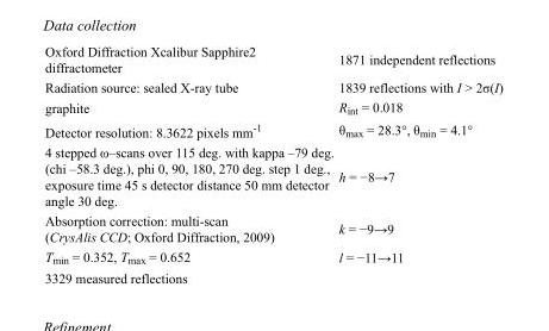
<table><tbody><tr><td>Oxford Diffraction Xcalibur Sapphire2 diffractometer</td><td>1871 independent reflections</td></tr><tr><td>Radiation source: sealed X-ray tube</td><td>1839 reflections with I &gt; 2σ(I)</td></tr><tr><td>graphite</td><td>R<sub>int</sub> = 0.018</td></tr><tr><td>Detector resolution: 8.3622 pixels mm<sup>-1</sup></td><td>θ<sub>max</sub> = 28.3°, θ<sub>min</sub> = 4.1°</td></tr><tr><td>4 stepped ω–scans over 115 deg. with kappa –79 deg. (chi –58.3 deg.), phi 0, 90, 180, 270 deg. step 1 deg., exposure time 45 s detector distance 50 mm detector angle 30 deg.</td><td>h = −8→7</td></tr><tr><td>Absorption correction: multi-scan (CrysAlis CCD; Oxford Diffraction, 2009)</td><td>k = −9→9</td></tr><tr><td>T<sub>min</sub> = 0.352, T<sub>max</sub> = 0.652</td><td>l = −11→11</td></tr><tr><td>3329 measured reflections</td><td></td></tr></tbody></table>